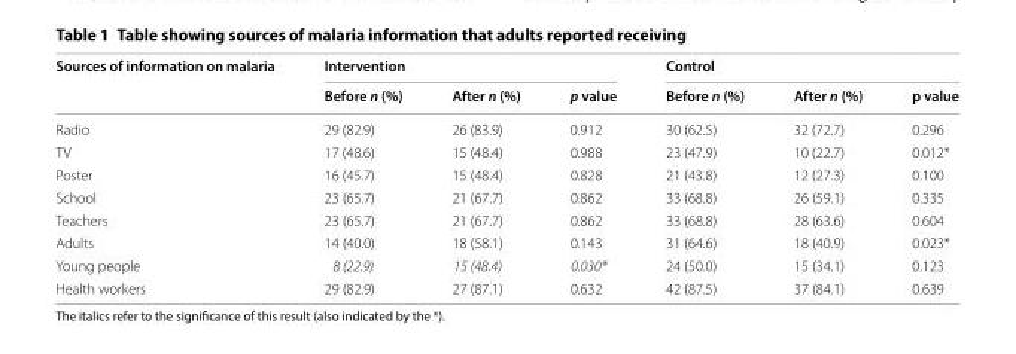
<table><thead><tr><td rowspan="2">Sources of information on malaria</td><td colspan="3">Intervention</td><td colspan="3">Control</td></tr><tr><td>Before n (%)</td><td>After n (%)</td><td>p value</td><td>Before n (%)</td><td>After n (%)</td><td>p value</td></tr></thead><tbody><tr><td>Radio</td><td>29 (82.9)</td><td>26 (83.9)</td><td>0.912</td><td>30 (62.5)</td><td>32 (72.7)</td><td>0.296</td></tr><tr><td>TV</td><td>17 (48.6)</td><td>15 (48.4)</td><td>0.988</td><td>23 (47.9)</td><td>10 (22.7)</td><td>0.012*</td></tr><tr><td>Poster</td><td>16 (45.7)</td><td>15 (48.4)</td><td>0.828</td><td>21 (43.8)</td><td>12 (27.3)</td><td>0.100</td></tr><tr><td>School</td><td>23 (65.7)</td><td>21 (67.7)</td><td>0.862</td><td>33 (68.8)</td><td>26 (59.1)</td><td>0.335</td></tr><tr><td>Teachers</td><td>23 (65.7)</td><td>21 (67.7)</td><td>0.862</td><td>33 (68.8)</td><td>28 (63.6)</td><td>0.604</td></tr><tr><td>Adults</td><td>14 (40.0)</td><td>18 (58.1)</td><td>0.143</td><td>31 (64.6)</td><td>18 (40.9)</td><td>0.023*</td></tr><tr><td>Young people</td><td>8 (22.9)</td><td>15 (48.4)</td><td>0.030*</td><td>24 (50.0)</td><td>15 (34.1)</td><td>0.123</td></tr><tr><td>Health workers</td><td>29 (82.9)</td><td>27 (87.1)</td><td>0.632</td><td>42 (87.5)</td><td>37 (84.1)</td><td>0.639</td></tr></tbody></table>